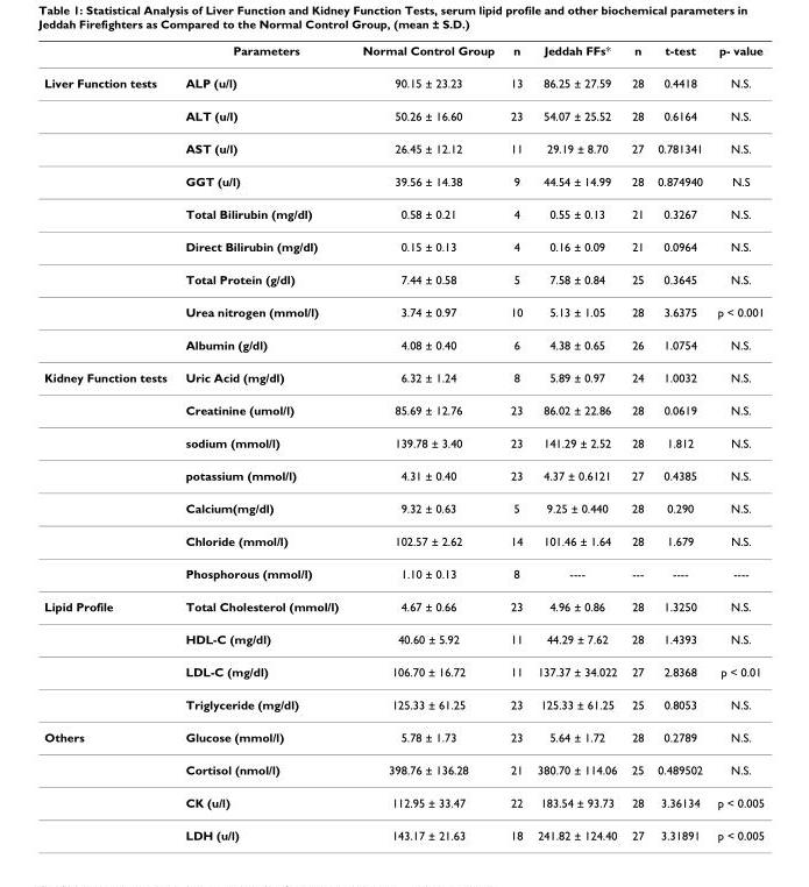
<table><thead><tr><td></td><td>Parameters</td><td>Normal Control Group</td><td>n</td><td>Jeddah FFs*</td><td>n</td><td>t-test</td><td>p- value</td></tr></thead><tbody><tr><td rowspan="9">Liver Function tests</td><td>ALP (u/l)</td><td>90.15 ± 23.23</td><td>13</td><td>86.25 ± 27.59</td><td>28</td><td>0.4418</td><td>N.S.</td></tr><tr><td>ALT (u/l)</td><td>50.26 ± 16.60</td><td>23</td><td>54.07 ± 25.52</td><td>28</td><td>0.6164</td><td>N.S.</td></tr><tr><td>AST (u/l)</td><td>26.45 ± 12.12</td><td>11</td><td>29.19 ± 8.70</td><td>27</td><td>0.781341</td><td>N.S.</td></tr><tr><td>GGT (u/l)</td><td>39.56 ± 14.38</td><td>9</td><td>44.54 ± 14.99</td><td>28</td><td>0.874940</td><td>N.S</td></tr><tr><td>Total Bilirubin (mg/dl)</td><td>0.58 ± 0.21</td><td>4</td><td>0.55 ± 0.13</td><td>21</td><td>0.3267</td><td>N.S.</td></tr><tr><td>Direct Bilirubin (mg/dl)</td><td>0.15 ± 0.13</td><td>4</td><td>0.16 ± 0.09</td><td>21</td><td>0.0964</td><td>N.S.</td></tr><tr><td>Total Protein (g/dl)</td><td>7.44 ± 0.58</td><td>5</td><td>7.58 ± 0.84</td><td>25</td><td>0.3645</td><td>N.S.</td></tr><tr><td>Urea nitrogen (mmol/l)</td><td>3.74 ± 0.97</td><td>10</td><td>5.13 ± 1.05</td><td>28</td><td>3.6375</td><td>p &lt; 0.001</td></tr><tr><td>Albumin (g/dl)</td><td>4.08 ± 0.40</td><td>6</td><td>4.38 ± 0.65</td><td>26</td><td>1.0754</td><td>N.S.</td></tr><tr><td rowspan="7">Kidney Function tests</td><td>Uric Acid (mg/dl)</td><td>6.32 ± 1.24</td><td>8</td><td>5.89 ± 0.97</td><td>24</td><td>1.0032</td><td>N.S.</td></tr><tr><td>Creatinine (umol/l)</td><td>85.69 ± 12.76</td><td>23</td><td>86.02 ± 22.86</td><td>28</td><td>0.0619</td><td>N.S.</td></tr><tr><td>sodium (mmol/l)</td><td>139.78 ± 3.40</td><td>23</td><td>141.29 ± 2.52</td><td>28</td><td>1.812</td><td>N.S.</td></tr><tr><td>potassium (mmol/l)</td><td>4.31 ± 0.40</td><td>23</td><td>4.37 ± 0.6121</td><td>27</td><td>0.4385</td><td>N.S.</td></tr><tr><td>Calcium(mg/dl)</td><td>9.32 ± 0.63</td><td>5</td><td>9.25 ± 0.440</td><td>28</td><td>0.290</td><td>N.S.</td></tr><tr><td>Chloride (mmol/l)</td><td>102.57 ± 2.62</td><td>14</td><td>101.46 ± 1.64</td><td>28</td><td>1.679</td><td>N.S.</td></tr><tr><td>Phosphorous (mmol/l)</td><td>1.10 ± 0.13</td><td>8</td><td>----</td><td>---</td><td>----</td><td>----</td></tr><tr><td rowspan="4">Lipid Profile</td><td>Total Cholesterol (mmol/l)</td><td>4.67 ± 0.66</td><td>23</td><td>4.96 ± 0.86</td><td>28</td><td>1.3250</td><td>N.S.</td></tr><tr><td>HDL-C (mg/dl)</td><td>40.60 ± 5.92</td><td>11</td><td>44.29 ± 7.62</td><td>28</td><td>1.4393</td><td>N.S.</td></tr><tr><td>LDL-C (mg/dl)</td><td>106.70 ± 16.72</td><td>11</td><td>137.37 ± 34.022</td><td>27</td><td>2.8368</td><td>p &lt; 0.01</td></tr><tr><td>Triglyceride (mg/dl)</td><td>125.33 ± 61.25</td><td>23</td><td>125.33 ± 61.25</td><td>25</td><td>0.8053</td><td>N.S.</td></tr><tr><td rowspan="4">Others</td><td>Glucose (mmol/l)</td><td>5.78 ± 1.73</td><td>23</td><td>5.64 ± 1.72</td><td>28</td><td>0.2789</td><td>N.S.</td></tr><tr><td>Cortisol (nmol/l)</td><td>398.76 ± 136.28</td><td>21</td><td>380.70 ± 114.06</td><td>25</td><td>0.489502</td><td>N.S.</td></tr><tr><td>CK (u/l)</td><td>112.95 ± 33.47</td><td>22</td><td>183.54 ± 93.73</td><td>28</td><td>3.36134</td><td>p &lt; 0.005</td></tr><tr><td>LDH (u/l)</td><td>143.17 ± 21.63</td><td>18</td><td>241.82 ± 124.40</td><td>27</td><td>3.31891</td><td>p &lt; 0.005</td></tr></tbody></table>